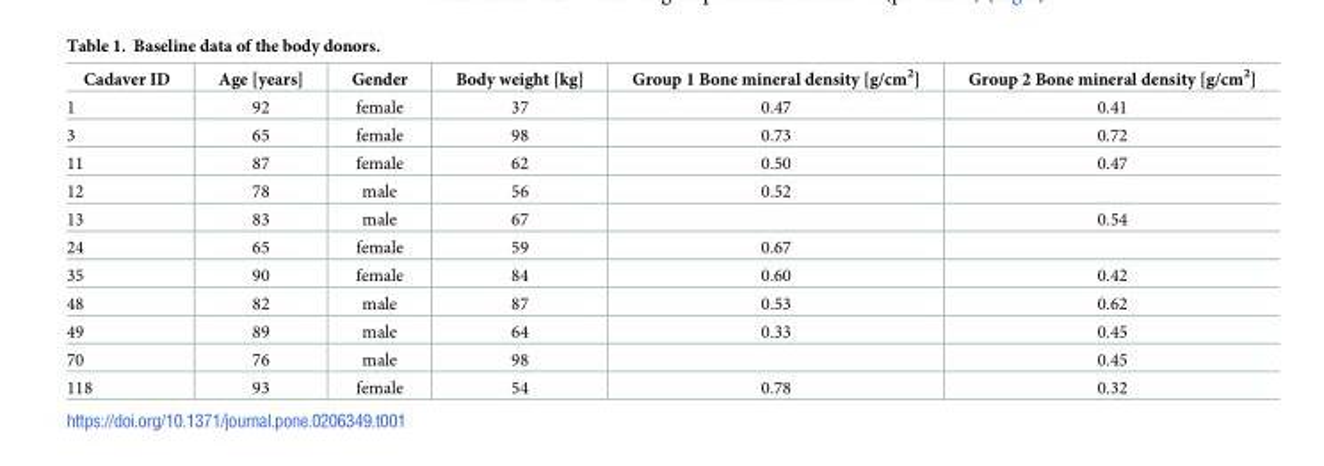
<table><thead><tr><td>Cadaver ID</td><td>Age [years]</td><td>Gender</td><td>Body weight [kg]</td><td>Group 1 Bone mineral density [g/cm<sup>2</sup>]</td><td>Group 2 Bone mineral density [g/cm<sup>2</sup>]</td></tr></thead><tbody><tr><td>1</td><td>92</td><td>female</td><td>37</td><td>0.47</td><td>0.41</td></tr><tr><td>3</td><td>65</td><td>female</td><td>98</td><td>0.73</td><td>0.72</td></tr><tr><td>11</td><td>87</td><td>female</td><td>62</td><td>0.50</td><td>0.47</td></tr><tr><td>12</td><td>78</td><td>male</td><td>56</td><td>0.52</td><td></td></tr><tr><td>13</td><td>83</td><td>male</td><td>67</td><td></td><td>0.54</td></tr><tr><td>24</td><td>65</td><td>female</td><td>59</td><td>0.67</td><td></td></tr><tr><td>35</td><td>90</td><td>female</td><td>84</td><td>0.60</td><td>0.42</td></tr><tr><td>48</td><td>82</td><td>male</td><td>87</td><td>0.53</td><td>0.62</td></tr><tr><td>49</td><td>89</td><td>male</td><td>64</td><td>0.33</td><td>0.45</td></tr><tr><td>70</td><td>76</td><td>male</td><td>98</td><td></td><td>0.45</td></tr><tr><td>118</td><td>93</td><td>female</td><td>54</td><td>0.78</td><td>0.32</td></tr></tbody></table>